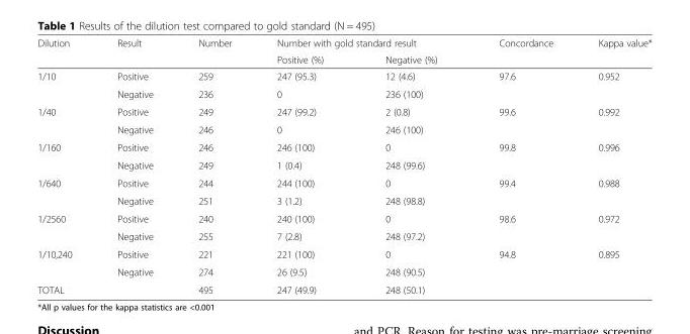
<table><thead><tr><td rowspan="2">Dilution</td><td rowspan="2">Result</td><td rowspan="2">Number</td><td colspan="2">Number with gold standard result</td><td rowspan="2">Concordance</td><td rowspan="2">Kappa value*</td></tr><tr><td>Positive (%)</td><td>Negative (%)</td></tr></thead><tbody><tr><td rowspan="2">1/10</td><td>Positive</td><td>259</td><td>247 (95.3)</td><td>12 (4.6)</td><td>97.6</td><td>0.952</td></tr><tr><td>Negative</td><td>236</td><td>0</td><td>236 (100)</td><td></td><td></td></tr><tr><td rowspan="2">1/40</td><td>Positive</td><td>249</td><td>247 (99.2)</td><td>2 (0.8)</td><td>99.6</td><td>0.992</td></tr><tr><td>Negative</td><td>246</td><td>0</td><td>246 (100)</td><td></td><td></td></tr><tr><td rowspan="2">1/160</td><td>Positive</td><td>246</td><td>246 (100)</td><td>0</td><td>99.8</td><td>0.996</td></tr><tr><td>Negative</td><td>249</td><td>1 (0.4)</td><td>248 (99.6)</td><td></td><td></td></tr><tr><td rowspan="2">1/640</td><td>Positive</td><td>244</td><td>244 (100)</td><td>0</td><td>99.4</td><td>0.988</td></tr><tr><td>Negative</td><td>251</td><td>3 (1.2)</td><td>248 (98.8)</td><td></td><td></td></tr><tr><td rowspan="2">1/2560</td><td>Positive</td><td>240</td><td>240 (100)</td><td>0</td><td>98.6</td><td>0.972</td></tr><tr><td>Negative</td><td>255</td><td>7 (2.8)</td><td>248 (97.2)</td><td></td><td></td></tr><tr><td rowspan="2">1/10,240</td><td>Positive</td><td>221</td><td>221 (100)</td><td>0</td><td>94.8</td><td>0.895</td></tr><tr><td>Negative</td><td>274</td><td>26 (9.5)</td><td>248 (90.5)</td><td></td><td></td></tr><tr><td colspan="2">TOTAL</td><td>495</td><td>247 (49.9)</td><td>248 (50.1)</td><td></td><td></td></tr></tbody></table>